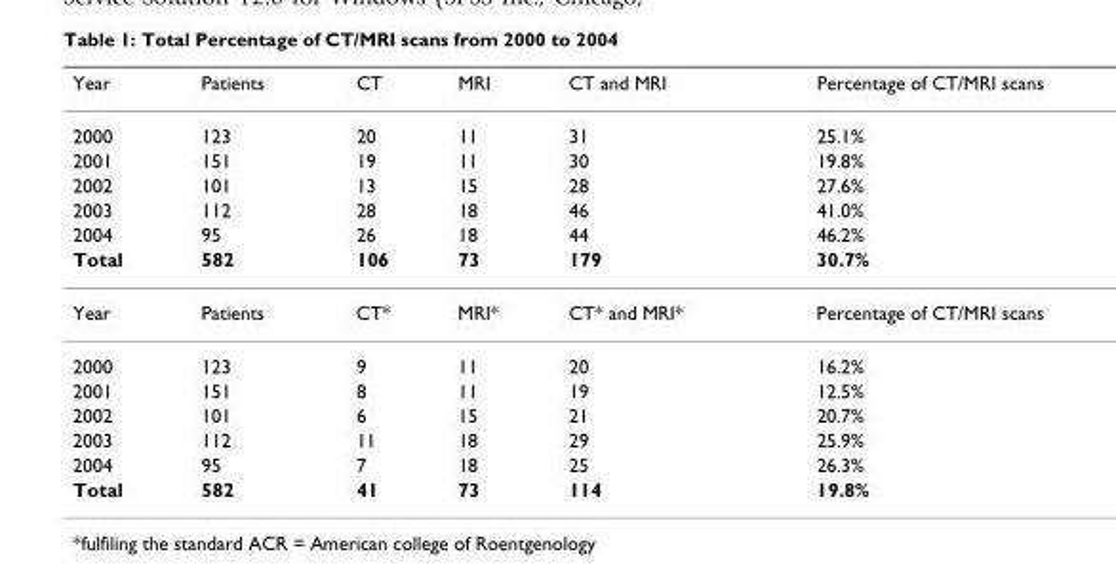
<table><thead><tr><td>Year</td><td>Patients</td><td>CT</td><td>MRI</td><td>CT and MRI</td><td>Percentage of CT/MRI scans</td></tr></thead><tbody><tr><td>2000</td><td>123</td><td>20</td><td>11</td><td>31</td><td>25.1%</td></tr><tr><td>2001</td><td>151</td><td>19</td><td>11</td><td>30</td><td>19.8%</td></tr><tr><td>2002</td><td>101</td><td>13</td><td>15</td><td>28</td><td>27.6%</td></tr><tr><td>2003</td><td>112</td><td>28</td><td>18</td><td>46</td><td>41.0%</td></tr><tr><td>2004</td><td>95</td><td>26</td><td>18</td><td>44</td><td>46.2%</td></tr><tr><td>Total</td><td>582</td><td>106</td><td>73</td><td>179</td><td>30.7%</td></tr><tr><td>Year</td><td>Patients</td><td>CT*</td><td>MRI*</td><td>CT* and MRI*</td><td>Percentage of CT/MRI scans</td></tr><tr><td>2000</td><td>123</td><td>9</td><td>11</td><td>20</td><td>16.2%</td></tr><tr><td>2001</td><td>151</td><td>8</td><td>11</td><td>19</td><td>12.5%</td></tr><tr><td>2002</td><td>101</td><td>6</td><td>15</td><td>21</td><td>20.7%</td></tr><tr><td>2003</td><td>112</td><td>11</td><td>18</td><td>29</td><td>25.9%</td></tr><tr><td>2004</td><td>95</td><td>7</td><td>18</td><td>25</td><td>26.3%</td></tr><tr><td>Total</td><td>582</td><td>41</td><td>73</td><td>114</td><td>19.8%</td></tr></tbody></table>